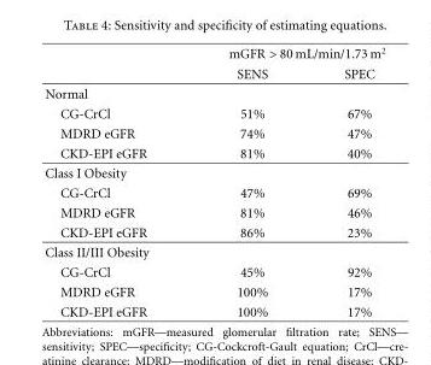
<table><thead><tr><td rowspan="2"></td><td colspan="2">mGFR &gt; 80 mL/min/1.73 m<sup>2</sup></td></tr><tr><td>SENS</td><td>SPEC</td></tr></thead><tbody><tr><td colspan="3">Normal</td></tr><tr><td>CG-CrCl</td><td>51%</td><td>67%</td></tr><tr><td>MDRD eGFR</td><td>74%</td><td>47%</td></tr><tr><td>CKD-EPI eGFR</td><td>81%</td><td>40%</td></tr><tr><td colspan="3">Class I Obesity</td></tr><tr><td>CG-CrCl</td><td>47%</td><td>69%</td></tr><tr><td>MDRD eGFR</td><td>81%</td><td>46%</td></tr><tr><td>CKD-EPI eGFR</td><td>86%</td><td>23%</td></tr><tr><td colspan="3">Class II/III Obesity</td></tr><tr><td>CG-CrCl</td><td>45%</td><td>92%</td></tr><tr><td>MDRD eGFR</td><td>100%</td><td>17%</td></tr><tr><td>CKD-EPI eGFR</td><td>100%</td><td>17%</td></tr></tbody></table>